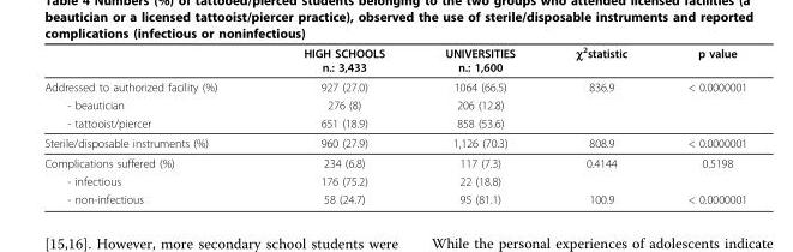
<table><thead><tr><td></td><td>HIGH SCHOOLS n.: 3,433</td><td>UNIVERSITIES n.: 1,600</td><td>χ<sup>2</sup>statistic</td><td>p value</td></tr></thead><tbody><tr><td>Addressed to authorized facility (%)</td><td>927 (27.0)</td><td>1064 (66.5)</td><td>836.9</td><td>&lt; 0.0000001</td></tr><tr><td>- beautician</td><td>276 (8)</td><td>206 (12.8)</td><td></td><td></td></tr><tr><td>- tattooist/piercer</td><td>651 (18.9)</td><td>858 (53.6)</td><td></td><td></td></tr><tr><td>Sterile/disposable instruments (%)</td><td>960 (27.9)</td><td>1,126 (70.3)</td><td>808.9</td><td>&lt; 0.0000001</td></tr><tr><td>Complications suffered (%)</td><td>234 (6.8)</td><td>117 (7.3)</td><td>0.4144</td><td>0.5198</td></tr><tr><td>- infectious</td><td>176 (75.2)</td><td>22 (18.8)</td><td></td><td></td></tr><tr><td>- non-infectious</td><td>58 (24.7)</td><td>95 (81.1)</td><td>100.9</td><td>&lt; 0.0000001</td></tr></tbody></table>